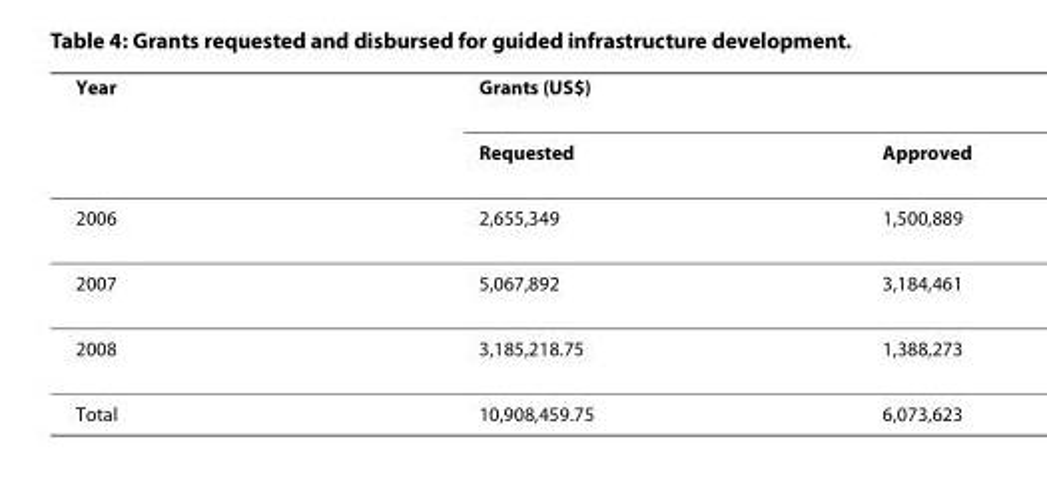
<table><thead><tr><td rowspan="2">Year</td><td colspan="2">Grants (US$)</td></tr><tr><td>Requested</td><td>Approved</td></tr></thead><tbody><tr><td>2006</td><td>2,655,349</td><td>1,500,889</td></tr><tr><td>2007</td><td>5,067,892</td><td>3,184,461</td></tr><tr><td>2008</td><td>3,185,218.75</td><td>1,388,273</td></tr><tr><td>Total</td><td>10,908,459.75</td><td>6,073,623</td></tr></tbody></table>